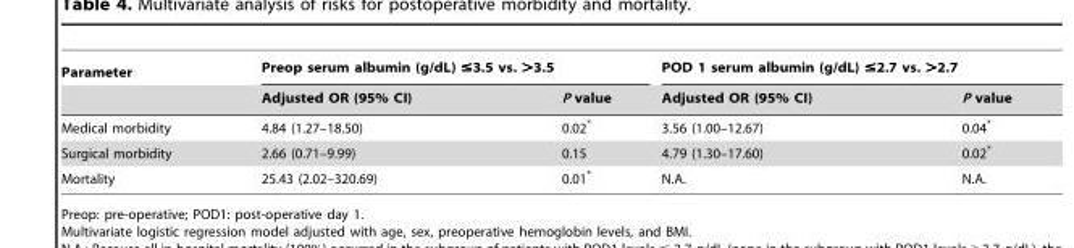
<table><thead><tr><td rowspan="2">Parameter</td><td colspan="2">Preop serum albumin (g/dL) ≤3.5 vs. &gt;3.5</td><td colspan="2">POD 1 serum albumin (g/dL) ≤2.7 vs. &gt;2.7</td></tr><tr><td>Adjusted OR (95% CI)</td><td>P value</td><td>Adjusted OR (95% CI)</td><td>P value</td></tr></thead><tbody><tr><td>Medical morbidity</td><td>4.84 (1.27–18.50)</td><td>0.02*</td><td>3.56 (1.00–12.67)</td><td>0.04*</td></tr><tr><td>Surgical morbidity</td><td>2.66 (0.71–9.99)</td><td>0.15</td><td>4.79 (1.30–17.60)</td><td>0.02*</td></tr><tr><td>Mortality</td><td>25.43 (2.02–320.69)</td><td>0.01*</td><td>N.A.</td><td>N.A.</td></tr></tbody></table>